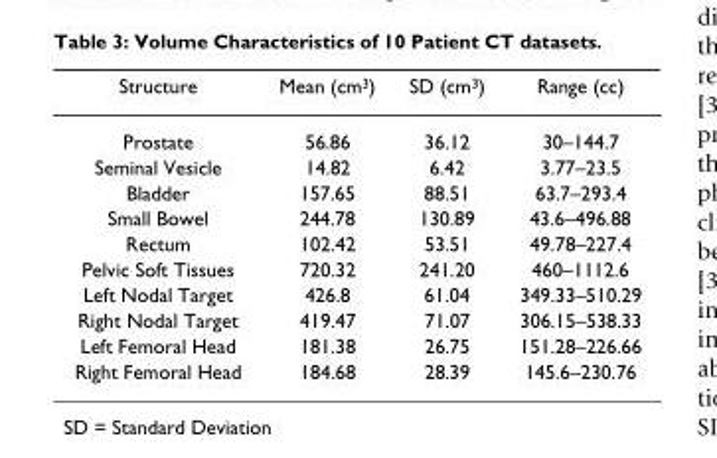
<table><thead><tr><td>Structure</td><td>Mean (cm<sup>3</sup>)</td><td>SD (cm<sup>3</sup>)</td><td>Range (cc)</td></tr></thead><tbody><tr><td>Prostate</td><td>56.86</td><td>36.12</td><td>30–144.7</td></tr><tr><td>Seminal Vesicle</td><td>14.82</td><td>6.42</td><td>3.77–23.5</td></tr><tr><td>Bladder</td><td>157.65</td><td>88.51</td><td>63.7–293.4</td></tr><tr><td>Small Bowel</td><td>244.78</td><td>130.89</td><td>43.6–496.88</td></tr><tr><td>Rectum</td><td>102.42</td><td>53.51</td><td>49.78–227.4</td></tr><tr><td>Pelvic Soft Tissues</td><td>720.32</td><td>241.20</td><td>460–1112.6</td></tr><tr><td>Left Nodal Target</td><td>426.8</td><td>61.04</td><td>349.33–510.29</td></tr><tr><td>Right Nodal Target</td><td>419.47</td><td>71.07</td><td>306.15–538.33</td></tr><tr><td>Left Femoral Head</td><td>181.38</td><td>26.75</td><td>151.28–226.66</td></tr><tr><td>Right Femoral Head</td><td>184.68</td><td>28.39</td><td>145.6–230.76</td></tr></tbody></table>